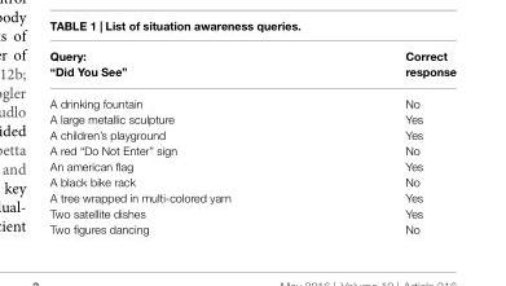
<table><thead><tr><td>Query: “Did You See”</td><td>Correct response</td></tr></thead><tbody><tr><td>A drinking fountain</td><td>No</td></tr><tr><td>A large metallic sculpture</td><td>Yes</td></tr><tr><td>A children’s playground</td><td>Yes</td></tr><tr><td>A red “Do Not Enter” sign</td><td>No</td></tr><tr><td>An american flag</td><td>Yes</td></tr><tr><td>A black bike rack</td><td>No</td></tr><tr><td>A tree wrapped in multi-colored yarn</td><td>Yes</td></tr><tr><td>Two satellite dishes</td><td>Yes</td></tr><tr><td>Two figures dancing</td><td>No</td></tr></tbody></table>